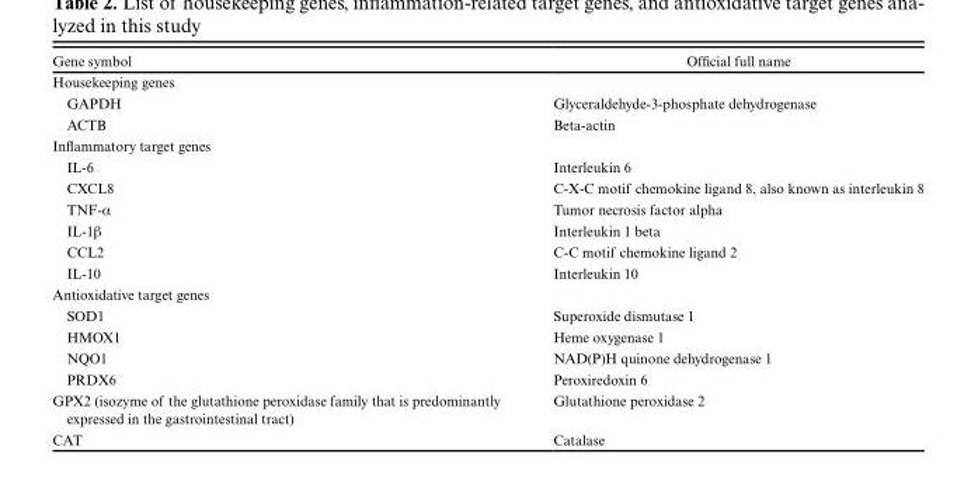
<table><thead><tr><td>Gene symbol</td><td>Official full name</td></tr></thead><tbody><tr><td colspan="2">Housekeeping genes</td></tr><tr><td>GAPDH</td><td>Glyceraldehyde-3-phosphate dehydrogenase</td></tr><tr><td>ACTB</td><td>Beta-actin</td></tr><tr><td colspan="2">Inflammatory target genes</td></tr><tr><td>IL-6</td><td>Interleukin 6</td></tr><tr><td>CXCL8</td><td>C-X-C motif chemokine ligand 8, also known as interleukin 8</td></tr><tr><td>TNF-α</td><td>Tumor necrosis factor alpha</td></tr><tr><td>IL-1β</td><td>Interleukin 1 beta</td></tr><tr><td>CCL2</td><td>C-C motif chemokine ligand 2</td></tr><tr><td>IL-10</td><td>Interleukin 10</td></tr><tr><td colspan="2">Antioxidative target genes</td></tr><tr><td>SOD1</td><td>Superoxide dismutase 1</td></tr><tr><td>HMOX1</td><td>Heme oxygenase 1</td></tr><tr><td>NQO1</td><td>NAD(P)H quinone dehydrogenase 1</td></tr><tr><td>PRDX6</td><td>Peroxiredoxin 6</td></tr><tr><td>GPX2 (isozyme of the glutathione peroxidase family that is predominantly expressed in the gastrointestinal tract)</td><td>Glutathione peroxidase 2</td></tr><tr><td>CAT</td><td>Catalase</td></tr></tbody></table>